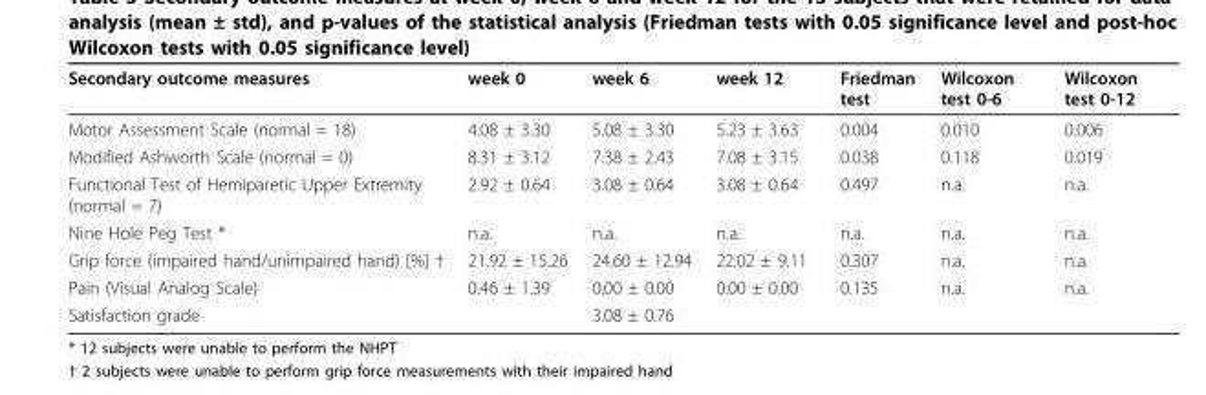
<table><thead><tr><td>Secondary outcome measures</td><td>week 0</td><td>week 6</td><td>week 12</td><td>Friedman test</td><td>Wilcoxon test 0-6</td><td>Wilcoxon test 0-12</td></tr></thead><tbody><tr><td>Motor Assessment Scale (normal = 18)</td><td>4.08 ± 3.30</td><td>5.08 ± 3.30</td><td>5.23 ± 3.63</td><td>0.004</td><td>0.010</td><td>0.006</td></tr><tr><td>Modified Ashworth Scale (normal = 0)</td><td>8.31 ± 3.12</td><td>7.38 ± 2.43</td><td>7.08 ± 3.15</td><td>0.038</td><td>0.118</td><td>0.019</td></tr><tr><td>Functional Test of Hemiparetic Upper Extremity (normal = 7)</td><td>2.92 ± 0.64</td><td>3.08 ± 0.64</td><td>3.08 ± 0.64</td><td>0.497</td><td>n.a.</td><td>n.a.</td></tr><tr><td>Nine Hole Peg Test *</td><td>n.a.</td><td>n.a.</td><td>n.a.</td><td>n.a.</td><td>n.a.</td><td>n.a.</td></tr><tr><td>Grip force (impaired hand/unimpaired hand) [%] †</td><td>21.92 ± 15.26</td><td>24.60 ± 12.94</td><td>22.02 ± 9.11</td><td>0.307</td><td>n.a.</td><td>n.a.</td></tr><tr><td>Pain (Visual Analog Scale)</td><td>0.46 ± 1.39</td><td>0.00 ± 0.00</td><td>0.00 ± 0.00</td><td>0.135</td><td>n.a.</td><td>n.a.</td></tr><tr><td>Satisfaction grade</td><td></td><td>3.08 ± 0.76</td><td></td><td></td><td></td><td></td></tr></tbody></table>